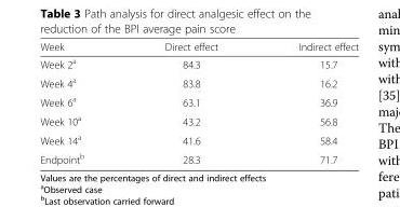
<table><thead><tr><td>Week</td><td>Direct effect</td><td>Indirect effect</td></tr></thead><tbody><tr><td>Week 2<sup>a</sup></td><td>84.3</td><td>15.7</td></tr><tr><td>Week 4<sup>a</sup></td><td>83.8</td><td>16.2</td></tr><tr><td>Week 6<sup>a</sup></td><td>63.1</td><td>36.9</td></tr><tr><td>Week 10<sup>a</sup></td><td>43.2</td><td>56.8</td></tr><tr><td>Week 14<sup>a</sup></td><td>41.6</td><td>58.4</td></tr><tr><td>Endpoint<sup>b</sup></td><td>28.3</td><td>71.7</td></tr></tbody></table>